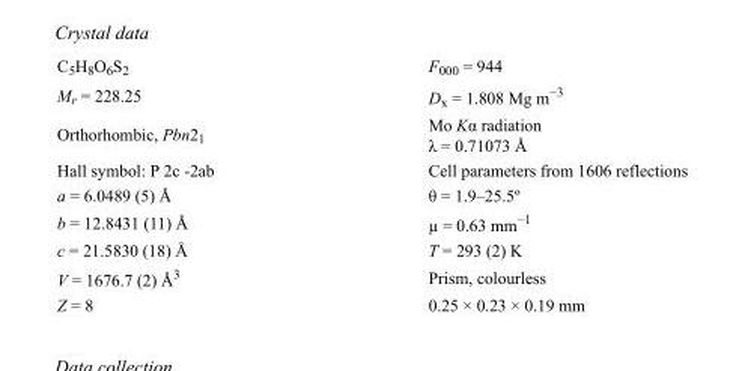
<table><tbody><tr><td>C<sub>5</sub>H<sub>8</sub>O<sub>6</sub>S<sub>2</sub></td><td>F000 = 944</td></tr><tr><td>M<sub>r</sub> = 228.25</td><td>D<sub>x</sub> = 1.808 Mg m<sup>−3</sup></td></tr><tr><td>Orthorhombic, Pbn2<sub>1</sub></td><td>Mo Kα radiation λ = 0.71073 Å</td></tr><tr><td>Hall symbol: P 2c -2ab</td><td>Cell parameters from 1606 reflections</td></tr><tr><td>a = 6.0489 (5) Å</td><td>θ = 1.9–25.5º</td></tr><tr><td>b = 12.8431 (11) Å</td><td>µ = 0.63 mm<sup>−1</sup></td></tr><tr><td>c = 21.5830 (18) Å</td><td>T = 293 (2) K</td></tr><tr><td>V = 1676.7 (2) Å<sup>3</sup></td><td>Prism, colourless</td></tr><tr><td>Z = 8</td><td>0.25 × 0.23 × 0.19 mm</td></tr></tbody></table>